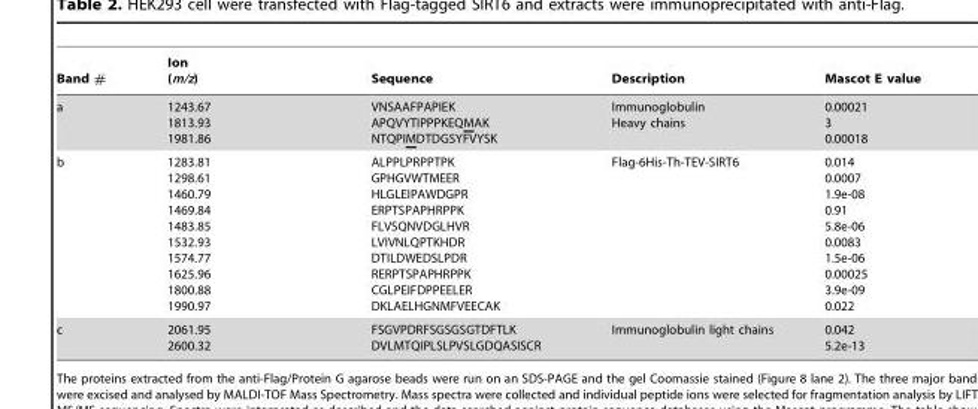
<table><thead><tr><td>Band #</td><td>Ion (m/z)</td><td>Sequence</td><td>Description</td><td>Mascot E value</td></tr></thead><tbody><tr><td>a</td><td>1243.67 1813.93 1981.86</td><td>VNSAAFPAPIEK APQVYTIPPPKEQMAK NTQPIMDTDGSYFVYSK</td><td>Immunoglobulin Heavy chains</td><td>0.00021 3 0.00018</td></tr><tr><td>b</td><td>1283.81 1298.61 1460.79 1469.84 1483.85 1532.93 1574.77 1625.96 1800.88 1990.97</td><td>ALPPLPRPPTPK GPHGVWTMEER HLGLEIPAWDGPR ERPTSPAPHRPPK FLVSQNVDGLHVR LVIVNLQPTKHDR DTILDWEDSLPDR RERPTSPAPHRPPK CGLPEIFDPPEELER DKLAELHGNMFVEECAK</td><td>Flag-6His-Th-TEV-SIRT6</td><td>0.014 0.0007 1.9e-08 0.91 5.8e-06 0.0083 1.5e-06 0.00025 3.9e-09 0.022</td></tr><tr><td>c</td><td>2061.95 2600.32</td><td>FSGVPDRFSGSGSGTDFTLK DVLMTQIPLSLPVSLGDQASISCR</td><td>Immunoglobulin light chains</td><td>0.042 5.2e-13</td></tr></tbody></table>